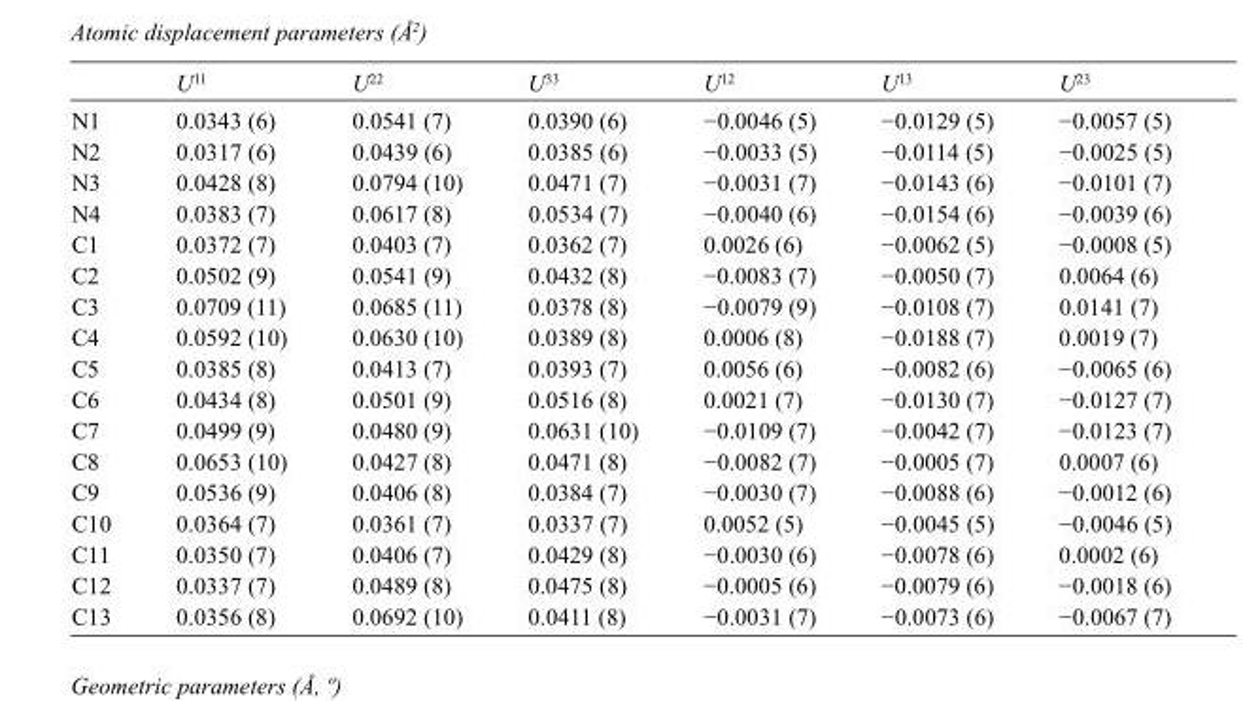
<table><thead><tr><td></td><td>U<sup>11</sup></td><td>U<sup>22</sup></td><td>U<sup>33</sup></td><td>U<sup>12</sup></td><td>U<sup>13</sup></td><td>U<sup>23</sup></td></tr></thead><tbody><tr><td>N1</td><td>0.0343 (6)</td><td>0.0541 (7)</td><td>0.0390 (6)</td><td>−0.0046 (5)</td><td>−0.0129 (5)</td><td>−0.0057 (5)</td></tr><tr><td>N2</td><td>0.0317 (6)</td><td>0.0439 (6)</td><td>0.0385 (6)</td><td>−0.0033 (5)</td><td>−0.0114 (5)</td><td>−0.0025 (5)</td></tr><tr><td>N3</td><td>0.0428 (8)</td><td>0.0794 (10)</td><td>0.0471 (7)</td><td>−0.0031 (7)</td><td>−0.0143 (6)</td><td>−0.0101 (7)</td></tr><tr><td>N4</td><td>0.0383 (7)</td><td>0.0617 (8)</td><td>0.0534 (7)</td><td>−0.0040 (6)</td><td>−0.0154 (6)</td><td>−0.0039 (6)</td></tr><tr><td>C1</td><td>0.0372 (7)</td><td>0.0403 (7)</td><td>0.0362 (7)</td><td>0.0026 (6)</td><td>−0.0062 (5)</td><td>−0.0008 (5)</td></tr><tr><td>C2</td><td>0.0502 (9)</td><td>0.0541 (9)</td><td>0.0432 (8)</td><td>−0.0083 (7)</td><td>−0.0050 (7)</td><td>0.0064 (6)</td></tr><tr><td>C3</td><td>0.0709 (11)</td><td>0.0685 (11)</td><td>0.0378 (8)</td><td>−0.0079 (9)</td><td>−0.0108 (7)</td><td>0.0141 (7)</td></tr><tr><td>C4</td><td>0.0592 (10)</td><td>0.0630 (10)</td><td>0.0389 (8)</td><td>0.0006 (8)</td><td>−0.0188 (7)</td><td>0.0019 (7)</td></tr><tr><td>C5</td><td>0.0385 (8)</td><td>0.0413 (7)</td><td>0.0393 (7)</td><td>0.0056 (6)</td><td>−0.0082 (6)</td><td>−0.0065 (6)</td></tr><tr><td>C6</td><td>0.0434 (8)</td><td>0.0501 (9)</td><td>0.0516 (8)</td><td>0.0021 (7)</td><td>−0.0130 (7)</td><td>−0.0127 (7)</td></tr><tr><td>C7</td><td>0.0499 (9)</td><td>0.0480 (9)</td><td>0.0631 (10)</td><td>−0.0109 (7)</td><td>−0.0042 (7)</td><td>−0.0123 (7)</td></tr><tr><td>C8</td><td>0.0653 (10)</td><td>0.0427 (8)</td><td>0.0471 (8)</td><td>−0.0082 (7)</td><td>−0.0005 (7)</td><td>0.0007 (6)</td></tr><tr><td>C9</td><td>0.0536 (9)</td><td>0.0406 (8)</td><td>0.0384 (7)</td><td>−0.0030 (7)</td><td>−0.0088 (6)</td><td>−0.0012 (6)</td></tr><tr><td>C10</td><td>0.0364 (7)</td><td>0.0361 (7)</td><td>0.0337 (7)</td><td>0.0052 (5)</td><td>−0.0045 (5)</td><td>−0.0046 (5)</td></tr><tr><td>C11</td><td>0.0350 (7)</td><td>0.0406 (7)</td><td>0.0429 (8)</td><td>−0.0030 (6)</td><td>−0.0078 (6)</td><td>0.0002 (6)</td></tr><tr><td>C12</td><td>0.0337 (7)</td><td>0.0489 (8)</td><td>0.0475 (8)</td><td>−0.0005 (6)</td><td>−0.0079 (6)</td><td>−0.0018 (6)</td></tr><tr><td>C13</td><td>0.0356 (8)</td><td>0.0692 (10)</td><td>0.0411 (8)</td><td>−0.0031 (7)</td><td>−0.0073 (6)</td><td>−0.0067 (7)</td></tr></tbody></table>